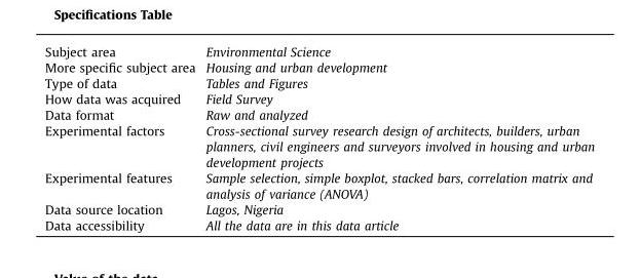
<table><tbody><tr><td>Subject area</td><td>Environmental Science</td></tr><tr><td>More specific subject area</td><td>Housing and urban development</td></tr><tr><td>Type of data</td><td>Tables and Figures</td></tr><tr><td>How data was acquired</td><td>Field Survey</td></tr><tr><td>Data format</td><td>Raw and analyzed</td></tr><tr><td>Experimental factors</td><td>Cross-sectional survey research design of architects, builders, urban planners, civil engineers and surveyors involved in housing and urban development projects</td></tr><tr><td>Experimental features</td><td>Sample selection, simple boxplot, stacked bars, correlation matrix and analysis of variance (ANOVA)</td></tr><tr><td>Data source location</td><td>Lagos, Nigeria</td></tr><tr><td>Data accessibility</td><td>All the data are in this data article</td></tr></tbody></table>